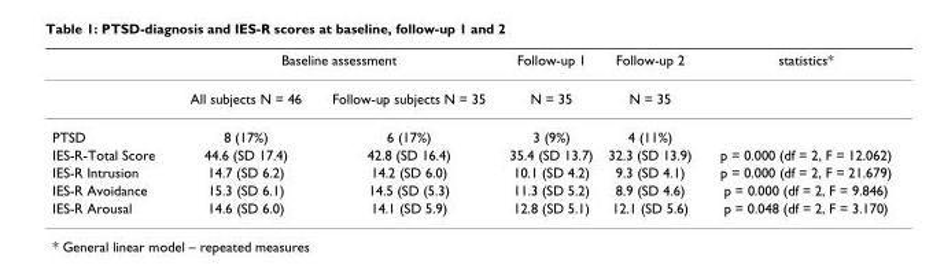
<table><thead><tr><td rowspan="2"></td><td colspan="2">Baseline assessment</td><td rowspan="2">Follow-up 1 N = 35</td><td rowspan="2">Follow-up 2 N = 35</td><td rowspan="2">statistics*</td></tr><tr><td>All subjects N = 46</td><td>Follow-up subjects N = 35</td></tr></thead><tbody><tr><td>PTSD</td><td>8 (17%)</td><td>6 (17%)</td><td>3 (9%)</td><td>4 (11%)</td><td></td></tr><tr><td>IES-R-Total Score</td><td>44.6 (SD 17.4)</td><td>42.8 (SD 16.4)</td><td>35.4 (SD 13.7)</td><td>32.3 (SD 13.9)</td><td>p = 0.000 (df = 2, F = 12.062)</td></tr><tr><td>IES-R Intrusion</td><td>14.7 (SD 6.2)</td><td>14.2 (SD 6.0)</td><td>10.1 (SD 4.2)</td><td>9.3 (SD 4.1)</td><td>p = 0.000 (df = 2, F = 21.679)</td></tr><tr><td>IES-R Avoidance</td><td>15.3 (SD 6.1)</td><td>14.5 (SD (5.3)</td><td>11.3 (SD 5.2)</td><td>8.9 (SD 4.6)</td><td>p = 0.000 (df = 2, F = 9.846)</td></tr><tr><td>IES-R Arousal</td><td>14.6 (SD 6.0)</td><td>14.1 (SD 5.9)</td><td>12.8 (SD 5.1)</td><td>12.1 (SD 5.6)</td><td>p = 0.048 (df = 2, F = 3.170)</td></tr></tbody></table>